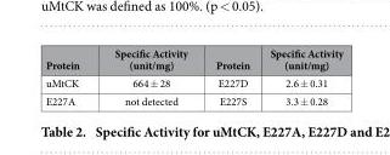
<table><thead><tr><td>Protein</td><td>Specific Activity (unit/mg)</td><td>Protein</td><td>Specific Activity (unit/mg)</td></tr></thead><tbody><tr><td>uMtCK</td><td>664 ± 28</td><td>E227D</td><td>2.6 ± 0.31</td></tr><tr><td>E227A</td><td>not detected</td><td>E227S</td><td>3.3 ± 0.28</td></tr></tbody></table>